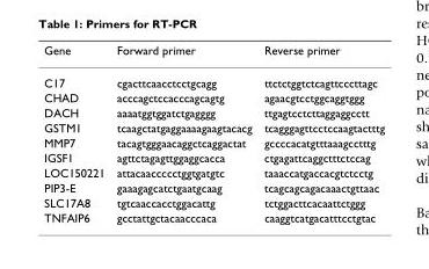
<table><thead><tr><td>Gene</td><td>Forward primer</td><td>Reverse primer</td></tr></thead><tbody><tr><td>C17</td><td>cgacttcaacctcctgcagg</td><td>ttctctggtctcagttcccttagc</td></tr><tr><td>CHAD</td><td>acccagctccacccagcagtg</td><td>agaacgtcctggcaggtggg</td></tr><tr><td>DACH</td><td>aaaatggtggatctgagggg</td><td>ttgagtcctcttaggaggcctt</td></tr><tr><td>GSTM1</td><td>tcaagctatgaggaaaagaagtacacg</td><td>tcagggagttcctccaagtactttg</td></tr><tr><td>MMP7</td><td>tacagtgggaacaggctcaggactat</td><td>gccccacatgtttaaagcctttg</td></tr><tr><td>IGSF1</td><td>agttctagagttggaggcacca</td><td>ctgagattcaggctttctccag</td></tr><tr><td>LOC150221</td><td>attacaaccccctggtgatgtc</td><td>taaaccatgaccacgtctcctg</td></tr><tr><td>PIP3-E</td><td>gaaagagcatctgaatgcaag</td><td>tcagcagcagacaaactgttaac</td></tr><tr><td>SLC17A8</td><td>tgtcaaccacctggacattg</td><td>tctggacttcacaattctggg</td></tr><tr><td>TNFAIP6</td><td>gcctattgctacaacccaca</td><td>caaggtcatgacatttcctgtac</td></tr></tbody></table>